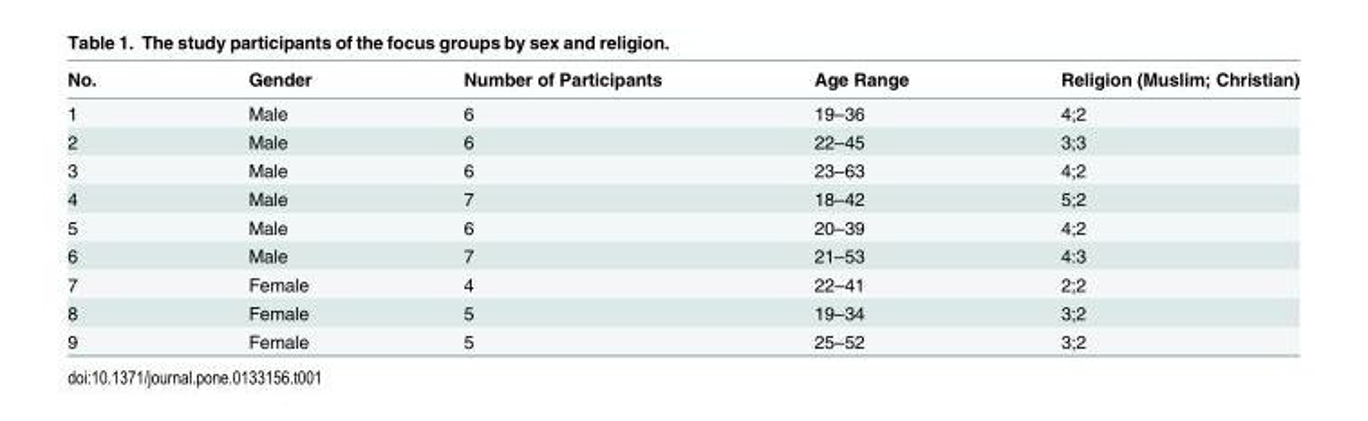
<table><thead><tr><td>No.</td><td>Gender</td><td>Number of Participants</td><td>Age Range</td><td>Religion (Muslim; Christian)</td></tr></thead><tbody><tr><td>1</td><td>Male</td><td>6</td><td>19–36</td><td>4;2</td></tr><tr><td>2</td><td>Male</td><td>6</td><td>22–45</td><td>3;3</td></tr><tr><td>3</td><td>Male</td><td>6</td><td>23–63</td><td>4;2</td></tr><tr><td>4</td><td>Male</td><td>7</td><td>18–42</td><td>5;2</td></tr><tr><td>5</td><td>Male</td><td>6</td><td>20–39</td><td>4;2</td></tr><tr><td>6</td><td>Male</td><td>7</td><td>21–53</td><td>4:3</td></tr><tr><td>7</td><td>Female</td><td>4</td><td>22–41</td><td>2;2</td></tr><tr><td>8</td><td>Female</td><td>5</td><td>19–34</td><td>3;2</td></tr><tr><td>9</td><td>Female</td><td>5</td><td>25–52</td><td>3;2</td></tr></tbody></table>